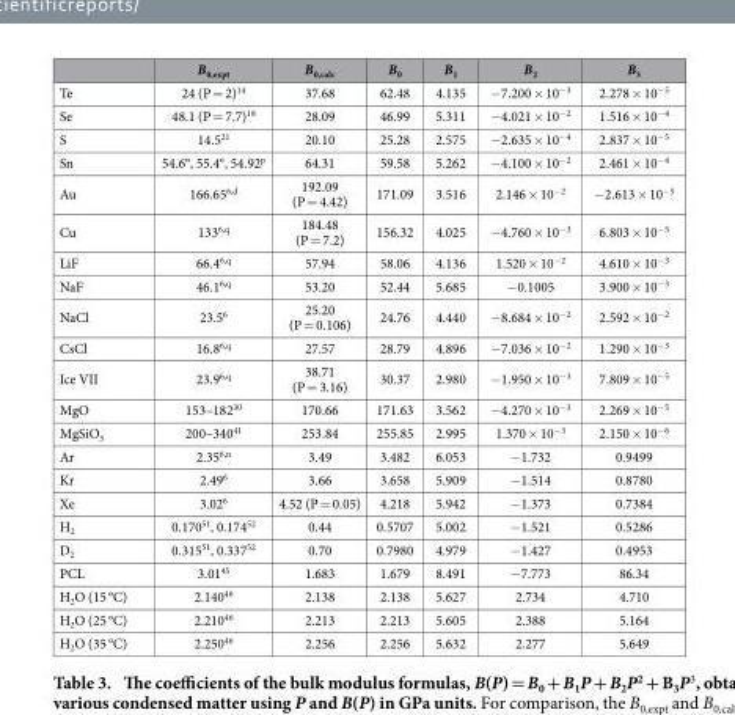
<table><thead><tr><td></td><td>B<sub>0,expt</sub></td><td>B<sub>0,calc</sub></td><td>B<sub>0</sub></td><td>B<sub>1</sub></td><td>B<sub>2</sub></td><td>B<sub>3</sub></td></tr></thead><tbody><tr><td>Te</td><td>24 (P = 2)<sup>14</sup></td><td>37.68</td><td>62.48</td><td>4.135</td><td>− 7.200 × 10<sup>−3</sup></td><td>2.278 × 10<sup>−5</sup></td></tr><tr><td>Se</td><td>48.1 (P = 7.7)<sup>18</sup></td><td>28.09</td><td>46.99</td><td>5.311</td><td>− 4.021 × 10<sup>−2</sup></td><td>1.516 × 10<sup>−4</sup></td></tr><tr><td>S</td><td>14.5<sup>21</sup></td><td>20.10</td><td>25.28</td><td>2.575</td><td>− 2.635 × 10<sup>−4</sup></td><td>2.837 × 10<sup>−5</sup></td></tr><tr><td>Sn</td><td>54.6°, 55.4°, 54.92<sup>p</sup></td><td>64.31</td><td>59.58</td><td>5.262</td><td>− 4.100 × 10<sup>−2</sup></td><td>2.461 × 10<sup>−4</sup></td></tr><tr><td>Au</td><td>166.65<sup>6,d</sup></td><td>192.09 (P = 4.42)</td><td>171.09</td><td>3.516</td><td>2.146 × 10<sup>−2</sup></td><td>− 2.613 × 10<sup>−5</sup></td></tr><tr><td>Cu</td><td>133<sup>6,q</sup></td><td>184.48 (P = 7.2)</td><td>156.32</td><td>4.025</td><td>− 4.760 × 10<sup>−3</sup></td><td>6.803 × 10<sup>−5</sup></td></tr><tr><td>LiF</td><td>66.4<sup>6,q</sup></td><td>57.94</td><td>58.06</td><td>4.136</td><td>1.520 × 10<sup>−2</sup></td><td>4.610 × 10<sup>−3</sup></td></tr><tr><td>NaF</td><td>46.1<sup>6,q</sup></td><td>53.20</td><td>52.44</td><td>5.685</td><td>− 0.1005</td><td>3.900 × 10<sup>−3</sup></td></tr><tr><td>NaCl</td><td>23.5<sup>6</sup></td><td>25.20 (P = 0.106)</td><td>24.76</td><td>4.440</td><td>− 8.684 × 10<sup>−2</sup></td><td>2.592 × 10<sup>−2</sup></td></tr><tr><td>CsCl</td><td>16.8<sup>6,q</sup></td><td>27.57</td><td>28.79</td><td>4.896</td><td>− 7.036 × 10<sup>−2</sup></td><td>1.290 × 10<sup>−3</sup></td></tr><tr><td>Ice VII</td><td>23.9<sup>6,q</sup></td><td>38.71 (P = 3.16)</td><td>30.37</td><td>2.980</td><td>− 1.950 × 10<sup>−3</sup></td><td>7.809 × 10<sup>−5</sup></td></tr><tr><td>MgO</td><td>153–182<sup>30</sup></td><td>170.66</td><td>171.63</td><td>3.562</td><td>− 4.270 × 10<sup>−3</sup></td><td>2.269 × 10<sup>−5</sup></td></tr><tr><td>MgSiO<sub>3</sub></td><td>200–340<sup>41</sup></td><td>253.84</td><td>255.85</td><td>2.995</td><td>1.370 × 10<sup>−3</sup></td><td>2.150 × 10<sup>−6</sup></td></tr><tr><td>Ar</td><td>2.35<sup>6,n</sup></td><td>3.49</td><td>3.482</td><td>6.053</td><td>− 1.732</td><td>0.9499</td></tr><tr><td>Kr</td><td>2.49<sup>6</sup></td><td>3.66</td><td>3.658</td><td>5.909</td><td>− 1.514</td><td>0.8780</td></tr><tr><td>Xe</td><td>3.02<sup>6</sup></td><td>4.52 (P = 0.05)</td><td>4.218</td><td>5.942</td><td>− 1.373</td><td>0.7384</td></tr><tr><td>H<sub>2</sub></td><td>0.170<sup>51</sup>, 0.174<sup>52</sup></td><td>0.44</td><td>0.5707</td><td>5.002</td><td>− 1.521</td><td>0.5286</td></tr><tr><td>D<sub>2</sub></td><td>0.315<sup>51</sup>, 0.337<sup>52</sup></td><td>0.70</td><td>0.7980</td><td>4.979</td><td>− 1.427</td><td>0.4953</td></tr><tr><td>PCL</td><td>3.01<sup>45</sup></td><td>1.683</td><td>1.679</td><td>8.491</td><td>− 7.773</td><td>86.34</td></tr><tr><td>H<sub>2</sub>O (15 °C)</td><td>2.140<sup>46</sup></td><td>2.138</td><td>2.138</td><td>5.627</td><td>2.734</td><td>4.710</td></tr><tr><td>H<sub>2</sub>O (25 °C)</td><td>2.210<sup>46</sup></td><td>2.213</td><td>2.213</td><td>5.605</td><td>2.388</td><td>5.164</td></tr><tr><td>H<sub>2</sub>O (35 °C)</td><td>2.250<sup>46</sup></td><td>2.256</td><td>2.256</td><td>5.632</td><td>2.277</td><td>5.649</td></tr></tbody></table>